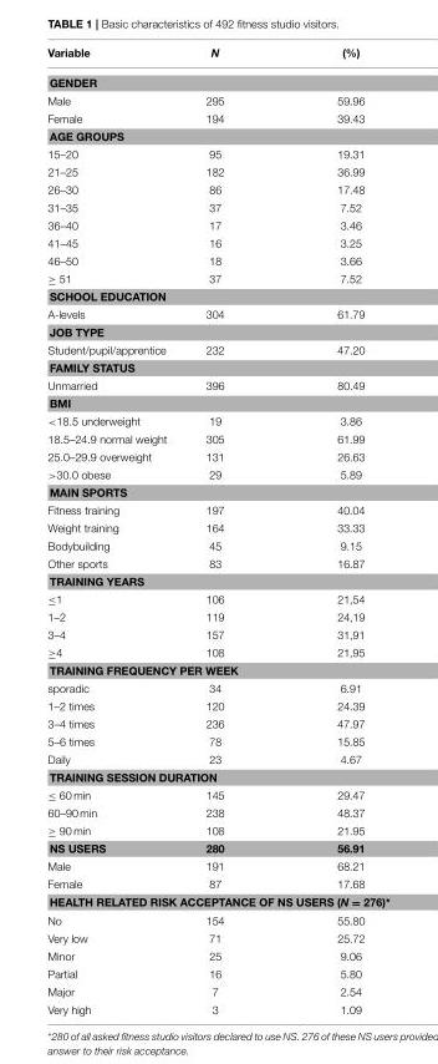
<table><thead><tr><td>Variable</td><td>N</td><td>(%)</td></tr></thead><tbody><tr><td colspan="3">GENDER</td></tr><tr><td>Male</td><td>295</td><td>59.96</td></tr><tr><td>Female</td><td>194</td><td>39.43</td></tr><tr><td colspan="3">AGE GROUPS</td></tr><tr><td>15–20</td><td>95</td><td>19.31</td></tr><tr><td>21–25</td><td>182</td><td>36.99</td></tr><tr><td>26–30</td><td>86</td><td>17.48</td></tr><tr><td>31–35</td><td>37</td><td>7.52</td></tr><tr><td>36–40</td><td>17</td><td>3.46</td></tr><tr><td>41–45</td><td>16</td><td>3.25</td></tr><tr><td>46–50</td><td>18</td><td>3.66</td></tr><tr><td>≥ 51</td><td>37</td><td>7.52</td></tr><tr><td colspan="3">SCHOOL EDUCATION</td></tr><tr><td>A-levels</td><td>304</td><td>61.79</td></tr><tr><td colspan="3">JOB TYPE</td></tr><tr><td>Student/pupil/apprentice</td><td>232</td><td>47.20</td></tr><tr><td colspan="3">FAMILY STATUS</td></tr><tr><td>Unmarried</td><td>396</td><td>80.49</td></tr><tr><td colspan="3">BMI</td></tr><tr><td>&lt;18.5 underweight</td><td>19</td><td>3.86</td></tr><tr><td>18.5–24.9 normal weight</td><td>305</td><td>61.99</td></tr><tr><td>25.0–29.9 overweight</td><td>131</td><td>26.63</td></tr><tr><td>&gt;30.0 obese</td><td>29</td><td>5.89</td></tr><tr><td colspan="3">MAIN SPORTS</td></tr><tr><td>Fitness training</td><td>197</td><td>40.04</td></tr><tr><td>Weight training</td><td>164</td><td>33.33</td></tr><tr><td>Bodybuilding</td><td>45</td><td>9.15</td></tr><tr><td>Other sports</td><td>83</td><td>16.87</td></tr><tr><td colspan="3">TRAINING YEARS</td></tr><tr><td>≤1</td><td>106</td><td>21,54</td></tr><tr><td>1–2</td><td>119</td><td>24,19</td></tr><tr><td>3–4</td><td>157</td><td>31,91</td></tr><tr><td>≥4</td><td>108</td><td>21,95</td></tr><tr><td colspan="3">TRAINING FREQUENCY PER WEEK</td></tr><tr><td>sporadic</td><td>34</td><td>6.91</td></tr><tr><td>1–2 times</td><td>120</td><td>24.39</td></tr><tr><td>3–4 times</td><td>236</td><td>47.97</td></tr><tr><td>5–6 times</td><td>78</td><td>15.85</td></tr><tr><td>Daily</td><td>23</td><td>4.67</td></tr><tr><td colspan="3">TRAINING SESSION DURATION</td></tr><tr><td>≤ 60 min</td><td>145</td><td>29.47</td></tr><tr><td>60–90 min</td><td>238</td><td>48.37</td></tr><tr><td>≥ 90 min</td><td>108</td><td>21.95</td></tr><tr><td>NS USERS</td><td>280</td><td>56.91</td></tr><tr><td>Male</td><td>191</td><td>68.21</td></tr><tr><td>Female</td><td>87</td><td>17.68</td></tr><tr><td colspan="3">HEALTH RELATED RISK ACCEPTANCE OF NS USERS (N = 276)*</td></tr><tr><td>No</td><td>154</td><td>55.80</td></tr><tr><td>Very low</td><td>71</td><td>25.72</td></tr><tr><td>Minor</td><td>25</td><td>9.06</td></tr><tr><td>Partial</td><td>16</td><td>5.80</td></tr><tr><td>Major</td><td>7</td><td>2.54</td></tr><tr><td>Very high</td><td>3</td><td>1.09</td></tr></tbody></table>